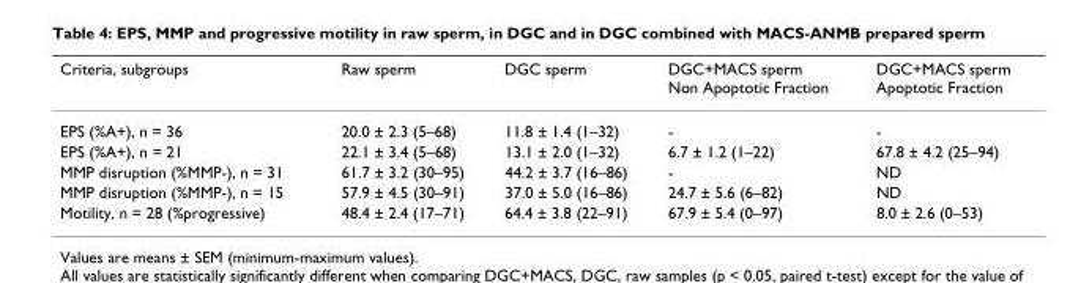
<table><thead><tr><td>Criteria, subgroups</td><td>Raw sperm</td><td>DGC sperm</td><td>DGC+MACS sperm Non Apoptotic Fraction</td><td>DGC+MACS sperm Apoptotic Fraction</td></tr></thead><tbody><tr><td>EPS (%A+), n = 36</td><td>20.0 ± 2.3 (5–68)</td><td>11.8 ± 1.4 (1–32)</td><td>-</td><td>-</td></tr><tr><td>EPS (%A+), n = 21</td><td>22.1 ± 3.4 (5–68)</td><td>13.1 ± 2.0 (1–32)</td><td>6.7 ± 1.2 (1–22)</td><td>67.8 ± 4.2 (25–94)</td></tr><tr><td>MMP disruption (%MMP-), n = 31</td><td>61.7 ± 3.2 (30–95)</td><td>44.2 ± 3.7 (16–86)</td><td>-</td><td>ND</td></tr><tr><td>MMP disruption (%MMP-), n = 15</td><td>57.9 ± 4.5 (30–91)</td><td>37.0 ± 5.0 (16–86)</td><td>24.7 ± 5.6 (6–82)</td><td>ND</td></tr><tr><td>Motility, n = 28 (%progressive)</td><td>48.4 ± 2.4 (17–71)</td><td>64.4 ± 3.8 (22–91)</td><td>67.9 ± 5.4 (0–97)</td><td>8.0 ± 2.6 (0–53)</td></tr></tbody></table>